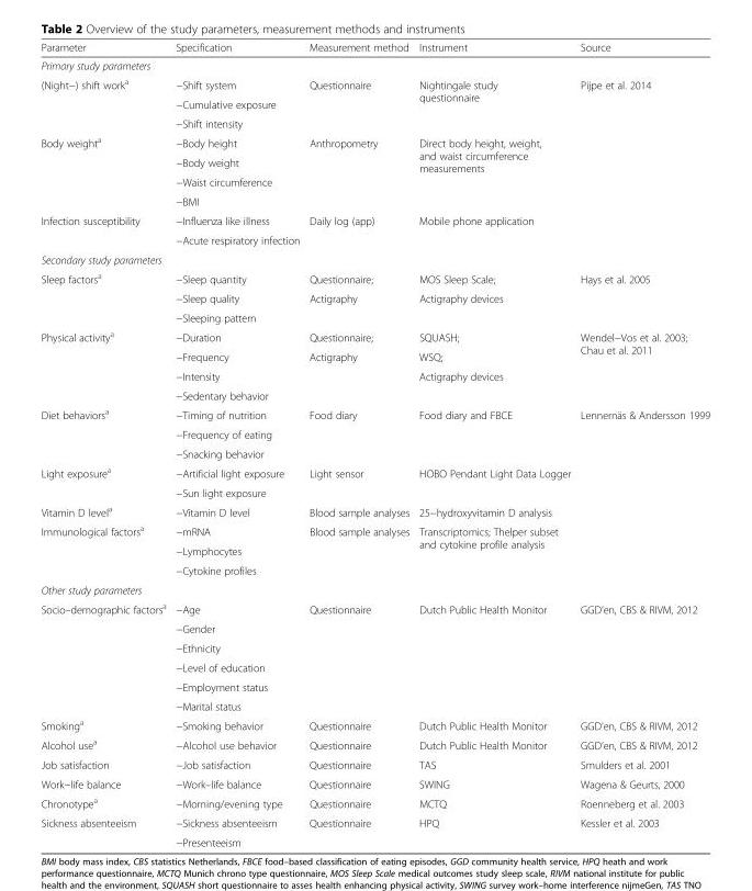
<table><thead><tr><td>Parameter</td><td>Specification</td><td>Measurement method</td><td>Instrument</td><td>Source</td></tr></thead><tbody><tr><td colspan="5">Primary study parameters</td></tr><tr><td rowspan="3">(Night−) shift work<sup>a</sup></td><td>−Shift system</td><td rowspan="3">Questionnaire</td><td rowspan="3">Nightingale study questionnaire</td><td rowspan="3">Pijpe et al. 2014</td></tr><tr><td>−Cumulative exposure</td></tr><tr><td>−Shift intensity</td></tr><tr><td rowspan="4">Body weight<sup>a</sup></td><td>−Body height</td><td rowspan="4">Anthropometry</td><td rowspan="4">Direct body height, weight, and waist circumference measurements</td><td rowspan="4"></td></tr><tr><td>−Body weight</td></tr><tr><td>−Waist circumference</td></tr><tr><td>−BMI</td></tr><tr><td rowspan="2">Infection susceptibility</td><td>−Influenza like illness</td><td rowspan="2">Daily log (app)</td><td rowspan="2">Mobile phone application</td><td rowspan="2"></td></tr><tr><td>−Acute respiratory infection</td></tr><tr><td colspan="5">Secondary study parameters</td></tr><tr><td rowspan="3">Sleep factors<sup>a</sup></td><td>−Sleep quantity</td><td>Questionnaire;</td><td>MOS Sleep Scale;</td><td rowspan="3">Hays et al. 2005</td></tr><tr><td>−Sleep quality</td><td rowspan="2">Actigraphy</td><td rowspan="2">Actigraphy devices</td></tr><tr><td>−Sleeping pattern</td></tr><tr><td rowspan="4">Physical activity<sup>a</sup></td><td>−Duration</td><td>Questionnaire;</td><td>SQUASH;</td><td rowspan="4">Wendel−Vos et al. 2003; Chau et al. 2011</td></tr><tr><td>−Frequency</td><td>Actigraphy</td><td>WSQ;</td></tr><tr><td>−Intensity</td><td rowspan="2"></td><td rowspan="2">Actigraphy devices</td></tr><tr><td>−Sedentary behavior</td></tr><tr><td rowspan="3">Diet behaviors<sup>a</sup></td><td>−Timing of nutrition</td><td rowspan="3">Food diary</td><td rowspan="3">Food diary and FBCE</td><td rowspan="3">Lennernäs &amp; Andersson 1999</td></tr><tr><td>−Frequency of eating</td></tr><tr><td>−Snacking behavior</td></tr><tr><td rowspan="2">Light exposure<sup>a</sup></td><td>−Artificial light exposure</td><td rowspan="2">Light sensor</td><td rowspan="2">HOBO Pendant Light Data Logger</td><td rowspan="2"></td></tr><tr><td>−Sun light exposure</td></tr><tr><td>Vitamin D level<sup>a</sup></td><td>−Vitamin D level</td><td>Blood sample analyses</td><td>25−hydroxyvitamin D analysis</td><td></td></tr><tr><td rowspan="3">Immunological factors<sup>a</sup></td><td>−mRNA</td><td rowspan="3">Blood sample analyses</td><td rowspan="3">Transcriptomics; Thelper subset and cytokine profile analysis</td><td rowspan="3"></td></tr><tr><td>−Lymphocytes</td></tr><tr><td>−Cytokine profiles</td></tr><tr><td colspan="5">Other study parameters</td></tr><tr><td rowspan="6">Socio–demographic factors<sup>a</sup></td><td>−Age</td><td rowspan="6">Questionnaire</td><td rowspan="6">Dutch Public Health Monitor</td><td rowspan="6">GGD’en, CBS &amp; RIVM, 2012</td></tr><tr><td>−Gender</td></tr><tr><td>−Ethnicity</td></tr><tr><td>−Level of education</td></tr><tr><td>−Employment status</td></tr><tr><td>−Marital status</td></tr><tr><td>Smoking<sup>a</sup></td><td>−Smoking behavior</td><td>Questionnaire</td><td>Dutch Public Health Monitor</td><td>GGD’en, CBS &amp; RIVM, 2012</td></tr><tr><td>Alcohol use<sup>a</sup></td><td>−Alcohol use behavior</td><td>Questionnaire</td><td>Dutch Public Health Monitor</td><td>GGD’en, CBS &amp; RIVM, 2012</td></tr><tr><td>Job satisfaction</td><td>−Job satisfaction</td><td>Questionnaire</td><td>TAS</td><td>Smulders et al. 2001</td></tr><tr><td>Work−life balance</td><td>−Work–life balance</td><td>Questionnaire</td><td>SWING</td><td>Wagena &amp; Geurts, 2000</td></tr><tr><td>Chronotype<sup>a</sup></td><td>−Morning/evening type</td><td>Questionnaire</td><td>MCTQ</td><td>Roenneberg et al. 2003</td></tr><tr><td rowspan="2">Sickness absenteeism</td><td>−Sickness absenteeism</td><td rowspan="2">Questionnaire</td><td rowspan="2">HPQ</td><td rowspan="2">Kessler et al. 2003</td></tr><tr><td>−Presenteeism</td></tr></tbody></table>